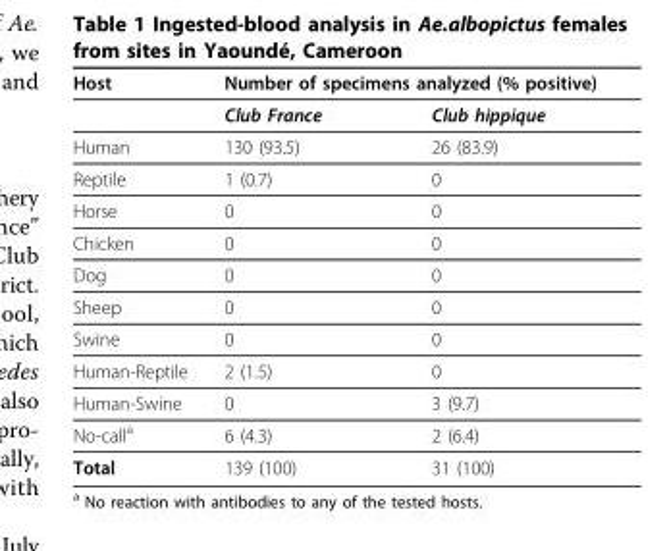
<table><thead><tr><td rowspan="2">Host</td><td colspan="2">Number of specimens analyzed (% positive)</td></tr><tr><td>Club France</td><td>Club hippique</td></tr></thead><tbody><tr><td>Human</td><td>130 (93.5)</td><td>26 (83.9)</td></tr><tr><td>Reptile</td><td>1 (0.7)</td><td>0</td></tr><tr><td>Horse</td><td>0</td><td>0</td></tr><tr><td>Chicken</td><td>0</td><td>0</td></tr><tr><td>Dog</td><td>0</td><td>0</td></tr><tr><td>Sheep</td><td>0</td><td>0</td></tr><tr><td>Swine</td><td>0</td><td>0</td></tr><tr><td>Human-Reptile</td><td>2 (1.5)</td><td>0</td></tr><tr><td>Human-Swine</td><td>0</td><td>3 (9.7)</td></tr><tr><td>No-call<sup>a</sup></td><td>6 (4.3)</td><td>2 (6.4)</td></tr><tr><td>Total</td><td>139 (100)</td><td>31 (100)</td></tr></tbody></table>